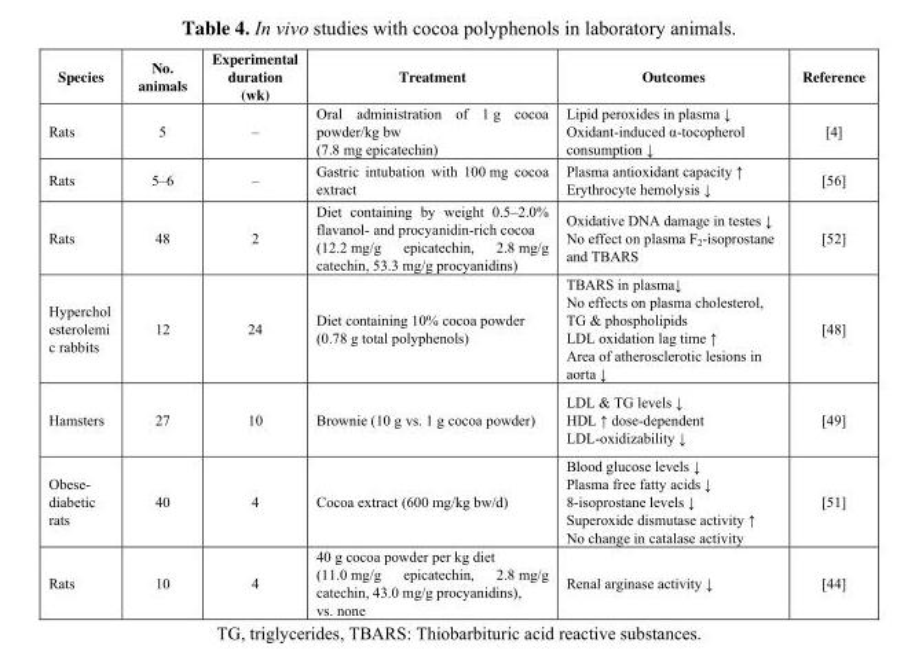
<table><thead><tr><td>Species</td><td>No. animals</td><td>Experimental duration (wk)</td><td>Treatment</td><td>Outcomes</td><td>Reference</td></tr></thead><tbody><tr><td>Rats</td><td>5</td><td>–</td><td>Oral administration of 1 g cocoa powder/kg bw (7.8 mg epicatechin)</td><td>Lipid peroxides in plasma ↓ Oxidant-induced α-tocopherol consumption ↓</td><td>[4]</td></tr><tr><td>Rats</td><td>5–6</td><td>–</td><td>Gastric intubation with 100 mg cocoa extract</td><td>Plasma antioxidant capacity ↑ Erythrocyte hemolysis ↓</td><td>[56]</td></tr><tr><td>Rats</td><td>48</td><td>2</td><td>Diet containing by weight 0.5–2.0% flavanol- and procyanidin-rich cocoa (12.2 mg/g epicatechin, 2.8 mg/g catechin, 53.3 mg/g procyanidins)</td><td>Oxidative DNA damage in testes ↓ No effect on plasma F<sub>2</sub>-isoprostane and TBARS</td><td>[52]</td></tr><tr><td>Hyperchol esterolemi c rabbits</td><td>12</td><td>24</td><td>Diet containing 10% cocoa powder (0.78 g total polyphenols)</td><td>TBARS in plasma↓ No effects on plasma cholesterol, TG &amp; phospholipids LDL oxidation lag time ↑ Area of atherosclerotic lesions in aorta ↓</td><td>[48]</td></tr><tr><td>Hamsters</td><td>27</td><td>10</td><td>Brownie (10 g vs. 1 g cocoa powder)</td><td>LDL &amp; TG levels ↓ HDL ↑ dose-dependent LDL-oxidizability ↓</td><td>[49]</td></tr><tr><td>Obese- diabetic rats</td><td>40</td><td>4</td><td>Cocoa extract (600 mg/kg bw/d)</td><td>Blood glucose levels ↓ Plasma free fatty acids ↓ 8-isoprostane levels ↓ Superoxide dismutase activity ↑ No change in catalase activity</td><td>[51]</td></tr><tr><td>Rats</td><td>10</td><td>4</td><td>40 g cocoa powder per kg diet (11.0 mg/g epicatechin, 2.8 mg/g catechin, 43.0 mg/g procyanidins), vs. none</td><td>Renal arginase activity ↓</td><td>[44]</td></tr></tbody></table>